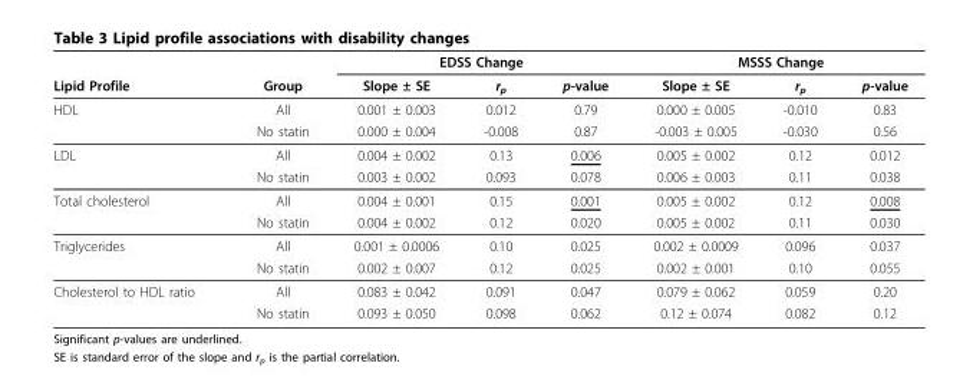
<table><thead><tr><td rowspan="2">Lipid Profile</td><td rowspan="2">Group</td><td colspan="3">EDSS Change</td><td colspan="3">MSSS Change</td></tr><tr><td>Slope ± SE</td><td>r<sub>p</sub></td><td>p-value</td><td>Slope ± SE</td><td>r<sub>p</sub></td><td>p-value</td></tr></thead><tbody><tr><td rowspan="2">HDL</td><td>All</td><td>0.001 ± 0.003</td><td>0.012</td><td>0.79</td><td>0.000 ± 0.005</td><td>-0.010</td><td>0.83</td></tr><tr><td>No statin</td><td>0.000 ± 0.004</td><td>-0.008</td><td>0.87</td><td>-0.003 ± 0.005</td><td>-0.030</td><td>0.56</td></tr><tr><td rowspan="2">LDL</td><td>All</td><td>0.004 ± 0.002</td><td>0.13</td><td>0.006</td><td>0.005 ± 0.002</td><td>0.12</td><td>0.012</td></tr><tr><td>No statin</td><td>0.003 ± 0.002</td><td>0.093</td><td>0.078</td><td>0.006 ± 0.003</td><td>0.11</td><td>0.038</td></tr><tr><td rowspan="2">Total cholesterol</td><td>All</td><td>0.004 ± 0.001</td><td>0.15</td><td>0.001</td><td>0.005 ± 0.002</td><td>0.12</td><td>0.008</td></tr><tr><td>No statin</td><td>0.004 ± 0.002</td><td>0.12</td><td>0.020</td><td>0.005 ± 0.002</td><td>0.11</td><td>0.030</td></tr><tr><td rowspan="2">Triglycerides</td><td>All</td><td>0.001 ± 0.0006</td><td>0.10</td><td>0.025</td><td>0.002 ± 0.0009</td><td>0.096</td><td>0.037</td></tr><tr><td>No statin</td><td>0.002 ± 0.007</td><td>0.12</td><td>0.025</td><td>0.002 ± 0.001</td><td>0.10</td><td>0.055</td></tr><tr><td rowspan="2">Cholesterol to HDL ratio</td><td>All</td><td>0.083 ± 0.042</td><td>0.091</td><td>0.047</td><td>0.079 ± 0.062</td><td>0.059</td><td>0.20</td></tr><tr><td>No statin</td><td>0.093 ± 0.050</td><td>0.098</td><td>0.062</td><td>0.12 ± 0.074</td><td>0.082</td><td>0.12</td></tr></tbody></table>